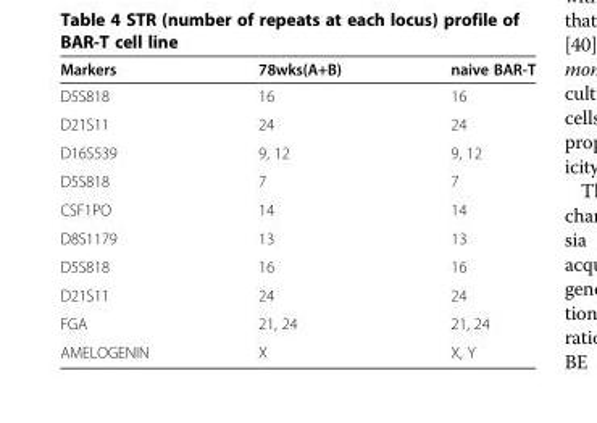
<table><thead><tr><td>Markers</td><td>78wks(A+B)</td><td>naive BAR-T</td></tr></thead><tbody><tr><td>D5S818</td><td>16</td><td>16</td></tr><tr><td>D21S11</td><td>24</td><td>24</td></tr><tr><td>D16S539</td><td>9, 12</td><td>9, 12</td></tr><tr><td>D5S818</td><td>7</td><td>7</td></tr><tr><td>CSF1PO</td><td>14</td><td>14</td></tr><tr><td>D8S1179</td><td>13</td><td>13</td></tr><tr><td>D5S818</td><td>16</td><td>16</td></tr><tr><td>D21S11</td><td>24</td><td>24</td></tr><tr><td>FGA</td><td>21, 24</td><td>21, 24</td></tr><tr><td>AMELOGENIN</td><td>X</td><td>X, Y</td></tr></tbody></table>